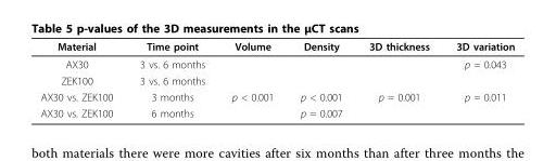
<table><thead><tr><td>Material</td><td>Time point</td><td>Volume</td><td>Density</td><td>3D thickness</td><td>3D variation</td></tr></thead><tbody><tr><td>AX30</td><td>3 vs. 6 months</td><td></td><td></td><td></td><td>p = 0.043</td></tr><tr><td>ZEK100</td><td>3 vs. 6 months</td><td></td><td></td><td></td><td></td></tr><tr><td>AX30 vs. ZEK100</td><td>3 months</td><td>p &lt; 0.001</td><td>p &lt; 0.001</td><td>p = 0.001</td><td>p = 0.011</td></tr><tr><td>AX30 vs. ZEK100</td><td>6 months</td><td></td><td>p = 0.007</td><td></td><td></td></tr></tbody></table>